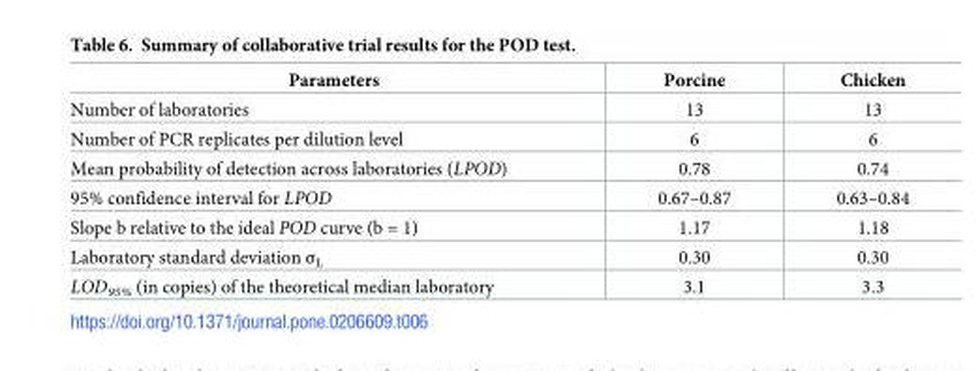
<table><thead><tr><td>Parameters</td><td>Porcine</td><td>Chicken</td></tr></thead><tbody><tr><td>Number of laboratories</td><td>13</td><td>13</td></tr><tr><td>Number of PCR replicates per dilution level</td><td>6</td><td>6</td></tr><tr><td>Mean probability of detection across laboratories (LPOD)</td><td>0.78</td><td>0.74</td></tr><tr><td>95% confidence interval for LPOD</td><td>0.67–0.87</td><td>0.63–0.84</td></tr><tr><td>Slope b relative to the ideal POD curve (b = 1)</td><td>1.17</td><td>1.18</td></tr><tr><td>Laboratory standard deviation σ<sub>L</sub></td><td>0.30</td><td>0.30</td></tr><tr><td>LOD<sub>95%</sub> (in copies) of the theoretical median laboratory</td><td>3.1</td><td>3.3</td></tr></tbody></table>